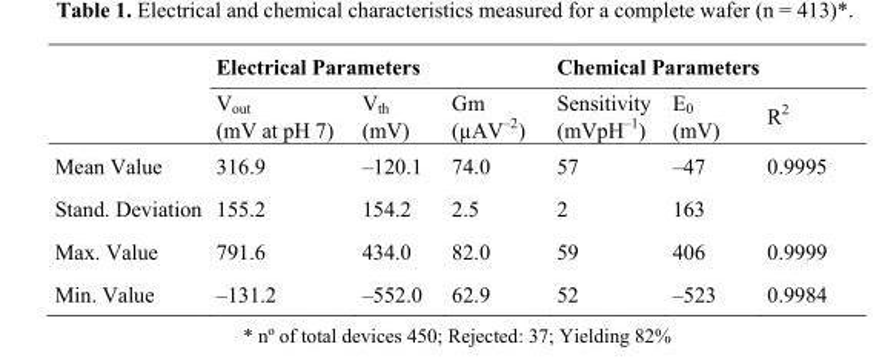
<table><thead><tr><td rowspan="2"></td><td colspan="3">Electrical Parameters</td><td colspan="3">Chemical Parameters</td></tr><tr><td>V<sub>out</sub> (mV at pH 7)</td><td>V<sub>th</sub> (mV)</td><td>Gm (µAV<sup>–2</sup>)</td><td>Sensitivity (mVpH<sup>–1</sup>)</td><td>E<sub>0</sub> (mV)</td><td>R<sup>2</sup></td></tr></thead><tbody><tr><td>Mean Value</td><td>316.9</td><td>–120.1</td><td>74.0</td><td>57</td><td>–47</td><td>0.9995</td></tr><tr><td>Stand. Deviation</td><td>155.2</td><td>154.2</td><td>2.5</td><td>2</td><td>163</td><td></td></tr><tr><td>Max. Value</td><td>791.6</td><td>434.0</td><td>82.0</td><td>59</td><td>406</td><td>0.9999</td></tr><tr><td>Min. Value</td><td>–131.2</td><td>–552.0</td><td>62.9</td><td>52</td><td>–523</td><td>0.9984</td></tr></tbody></table>